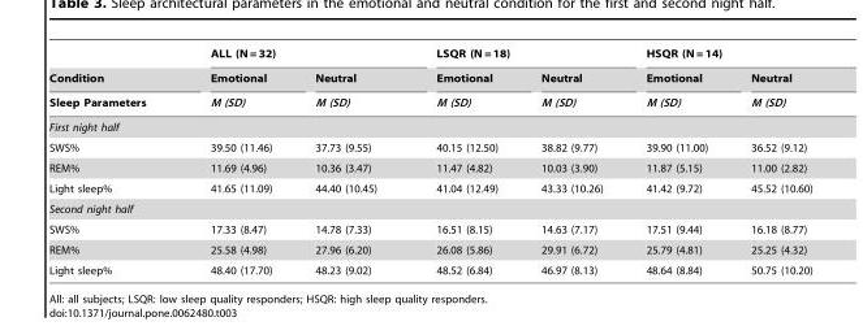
<table><thead><tr><td rowspan="3">Condition Sleep Parameters</td><td colspan="2">ALL (N = 32)</td><td colspan="2">LSQR (N = 18)</td><td colspan="2">HSQR (N = 14)</td></tr><tr><td rowspan="2">Emotional M (SD)</td><td rowspan="2">Neutral M (SD)</td><td rowspan="2">Emotional M (SD)</td><td rowspan="2">Neutral M (SD)</td><td rowspan="2">Emotional M (SD)</td><td rowspan="2">Neutral M (SD)</td></tr><tr></tr></thead><tbody><tr><td colspan="7">First night half</td></tr><tr><td>SWS%</td><td>39.50 (11.46)</td><td>37.73 (9.55)</td><td>40.15 (12.50)</td><td>38.82 (9.77)</td><td>39.90 (11.00)</td><td>36.52 (9.12)</td></tr><tr><td>REM%</td><td>11.69 (4.96)</td><td>10.36 (3.47)</td><td>11.47 (4.82)</td><td>10.03 (3.90)</td><td>11.87 (5.15)</td><td>11.00 (2.82)</td></tr><tr><td>Light sleep%</td><td>41.65 (11.09)</td><td>44.40 (10.45)</td><td>41.04 (12.49)</td><td>43.33 (10.26)</td><td>41.42 (9.72)</td><td>45.52 (10.60)</td></tr><tr><td colspan="7">Second night half</td></tr><tr><td>SWS%</td><td>17.33 (8.47)</td><td>14.78 (7.33)</td><td>16.51 (8.15)</td><td>14.63 (7.17)</td><td>17.51 (9.44)</td><td>16.18 (8.77)</td></tr><tr><td>REM%</td><td>25.58 (4.98)</td><td>27.96 (6.20)</td><td>26.08 (5.86)</td><td>29.91 (6.72)</td><td>25.79 (4.81)</td><td>25.25 (4.32)</td></tr><tr><td>Light sleep%</td><td>48.40 (17.70)</td><td>48.23 (9.02)</td><td>48.52 (6.84)</td><td>46.97 (8.13)</td><td>48.64 (8.84)</td><td>50.75 (10.20)</td></tr></tbody></table>